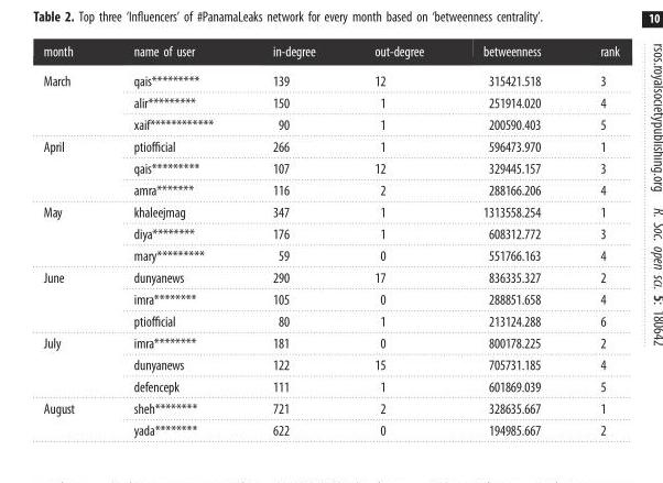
<table><thead><tr><td>month</td><td>name of user</td><td>in-degree</td><td>out-degree</td><td>betweenness</td><td>rank</td></tr></thead><tbody><tr><td rowspan="3">March</td><td>qais*********</td><td>139</td><td>12</td><td>315421.518</td><td>3</td></tr><tr><td>alir*********</td><td>150</td><td>1</td><td>251914.020</td><td>4</td></tr><tr><td>xaif************</td><td>90</td><td>1</td><td>200590.403</td><td>5</td></tr><tr><td rowspan="3">April</td><td>ptiofficial</td><td>266</td><td>1</td><td>596473.970</td><td>1</td></tr><tr><td>qais*********</td><td>107</td><td>12</td><td>329445.157</td><td>3</td></tr><tr><td>amra*******</td><td>116</td><td>2</td><td>288166.206</td><td>4</td></tr><tr><td rowspan="3">May</td><td>khaleejmag</td><td>347</td><td>1</td><td>1313558.254</td><td>1</td></tr><tr><td>diya********</td><td>176</td><td>1</td><td>608312.772</td><td>3</td></tr><tr><td>mary*********</td><td>59</td><td>0</td><td>551766.163</td><td>4</td></tr><tr><td rowspan="3">June</td><td>dunyanews</td><td>290</td><td>17</td><td>836335.327</td><td>2</td></tr><tr><td>imra********</td><td>105</td><td>0</td><td>288851.658</td><td>4</td></tr><tr><td>ptiofficial</td><td>80</td><td>1</td><td>213124.288</td><td>6</td></tr><tr><td rowspan="3">July</td><td>imra********</td><td>181</td><td>0</td><td>800178.225</td><td>2</td></tr><tr><td>dunyanews</td><td>122</td><td>15</td><td>705731.185</td><td>4</td></tr><tr><td>defencepk</td><td>111</td><td>1</td><td>601869.039</td><td>5</td></tr><tr><td rowspan="2">August</td><td>sheh********</td><td>721</td><td>2</td><td>328635.667</td><td>1</td></tr><tr><td>yada********</td><td>622</td><td>0</td><td>194985.667</td><td>2</td></tr></tbody></table>